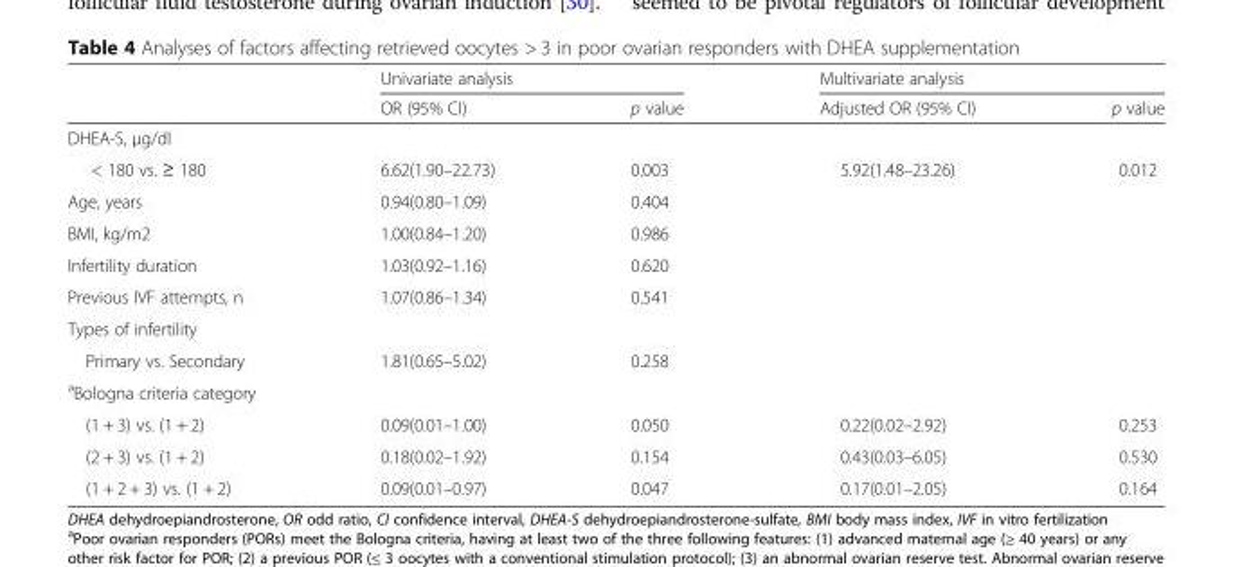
<table><thead><tr><td rowspan="2"></td><td colspan="2">Univariate analysis</td><td colspan="2">Multivariate analysis</td></tr><tr><td>OR (95% CI)</td><td>p value</td><td>Adjusted OR (95% CI)</td><td>p value</td></tr></thead><tbody><tr><td colspan="5">DHEA-S, μg/dl</td></tr><tr><td>&lt; 180 vs. ≥ 180</td><td>6.62(1.90–22.73)</td><td>0.003</td><td>5.92(1.48–23.26)</td><td>0.012</td></tr><tr><td>Age, years</td><td>0.94(0.80–1.09)</td><td>0.404</td><td></td><td></td></tr><tr><td>BMI, kg/m2</td><td>1.00(0.84–1.20)</td><td>0.986</td><td></td><td></td></tr><tr><td>Infertility duration</td><td>1.03(0.92–1.16)</td><td>0.620</td><td></td><td></td></tr><tr><td>Previous IVF attempts, n</td><td>1.07(0.86–1.34)</td><td>0.541</td><td></td><td></td></tr><tr><td colspan="5">Types of infertility</td></tr><tr><td>Primary vs. Secondary</td><td>1.81(0.65–5.02)</td><td>0.258</td><td></td><td></td></tr><tr><td colspan="5"><sup>a</sup>Bologna criteria category</td></tr><tr><td>(1 + 3) vs. (1 + 2)</td><td>0.09(0.01–1.00)</td><td>0.050</td><td>0.22(0.02–2.92)</td><td>0.253</td></tr><tr><td>(2 + 3) vs. (1 + 2)</td><td>0.18(0.02–1.92)</td><td>0.154</td><td>0.43(0.03–6.05)</td><td>0.530</td></tr><tr><td>(1 + 2 + 3) vs. (1 + 2)</td><td>0.09(0.01–0.97)</td><td>0.047</td><td>0.17(0.01–2.05)</td><td>0.164</td></tr></tbody></table>